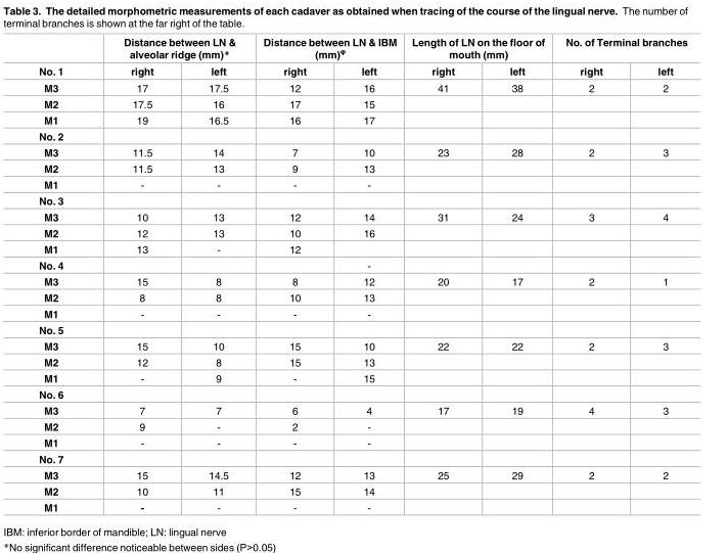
<table><thead><tr><td rowspan="2">No. 1</td><td colspan="2">Distance between LN &amp; alveolar ridge (mm)*</td><td colspan="2">Distance between LN &amp; IBM (mm)<sup>φ</sup></td><td colspan="2">Length of LN on the floor of mouth (mm)</td><td colspan="2">No. of Terminal branches</td></tr><tr><td>right</td><td>left</td><td>right</td><td>left</td><td>right</td><td>left</td><td>right</td><td>left</td></tr></thead><tbody><tr><td>M3</td><td>17</td><td>17.5</td><td>12</td><td>16</td><td>41</td><td>38</td><td>2</td><td>2</td></tr><tr><td>M2</td><td>17.5</td><td>16</td><td>17</td><td>15</td><td></td><td></td><td></td><td></td></tr><tr><td>M1</td><td>19</td><td>16.5</td><td>16</td><td>17</td><td></td><td></td><td></td><td></td></tr><tr><td colspan="9">No. 2</td></tr><tr><td>M3</td><td>11.5</td><td>14</td><td>7</td><td>10</td><td>23</td><td>28</td><td>2</td><td>3</td></tr><tr><td>M2</td><td>11.5</td><td>13</td><td>9</td><td>13</td><td></td><td></td><td></td><td></td></tr><tr><td>M1</td><td>-</td><td>-</td><td>-</td><td>-</td><td></td><td></td><td></td><td></td></tr><tr><td colspan="9">No. 3</td></tr><tr><td>M3</td><td>10</td><td>13</td><td>12</td><td>14</td><td>31</td><td>24</td><td>3</td><td>4</td></tr><tr><td>M2</td><td>12</td><td>13</td><td>10</td><td>16</td><td></td><td></td><td></td><td></td></tr><tr><td>M1</td><td>13</td><td>-</td><td>12</td><td></td><td></td><td></td><td></td><td></td></tr><tr><td>No. 4</td><td></td><td></td><td></td><td>-</td><td></td><td></td><td></td><td></td></tr><tr><td>M3</td><td>15</td><td>8</td><td>8</td><td>12</td><td>20</td><td>17</td><td>2</td><td>1</td></tr><tr><td>M2</td><td>8</td><td>8</td><td>10</td><td>13</td><td></td><td></td><td></td><td></td></tr><tr><td>M1</td><td>-</td><td>-</td><td>-</td><td>-</td><td></td><td></td><td></td><td></td></tr><tr><td colspan="9">No. 5</td></tr><tr><td>M3</td><td>15</td><td>10</td><td>15</td><td>10</td><td>22</td><td>22</td><td>2</td><td>3</td></tr><tr><td>M2</td><td>12</td><td>8</td><td>15</td><td>13</td><td></td><td></td><td></td><td></td></tr><tr><td>M1</td><td>-</td><td>9</td><td>-</td><td>15</td><td></td><td></td><td></td><td></td></tr><tr><td colspan="9">No. 6</td></tr><tr><td>M3</td><td>7</td><td>7</td><td>6</td><td>4</td><td>17</td><td>19</td><td>4</td><td>3</td></tr><tr><td>M2</td><td>9</td><td>-</td><td>2</td><td>-</td><td></td><td></td><td></td><td></td></tr><tr><td>M1</td><td>-</td><td>-</td><td>-</td><td>-</td><td></td><td></td><td></td><td></td></tr><tr><td colspan="9">No. 7</td></tr><tr><td>M3</td><td>15</td><td>14.5</td><td>12</td><td>13</td><td>25</td><td>29</td><td>2</td><td>2</td></tr><tr><td>M2</td><td>10</td><td>11</td><td>15</td><td>14</td><td></td><td></td><td></td><td></td></tr><tr><td>M1</td><td>-</td><td>-</td><td>-</td><td>-</td><td></td><td></td><td></td><td></td></tr></tbody></table>